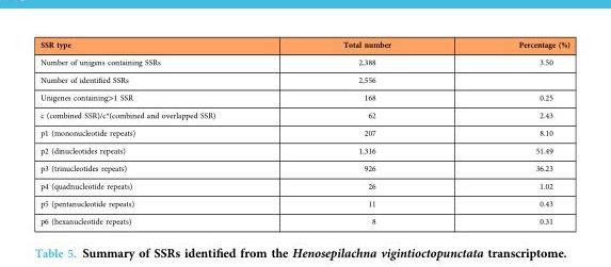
<table><thead><tr><td>SSR type</td><td>Total number</td><td>Percentage (%)</td></tr></thead><tbody><tr><td>Number of unigens containing SSRs</td><td>2,388</td><td>3.50</td></tr><tr><td>Number of identified SSRs</td><td>2,556</td><td></td></tr><tr><td>Unigenes containing&gt;1 SSR</td><td>168</td><td>0.25</td></tr><tr><td>c (combined SSR)/c*(combined and overlapped SSR)</td><td>62</td><td>2.43</td></tr><tr><td>p1 (mononucleotide repeats)</td><td>207</td><td>8.10</td></tr><tr><td>p2 (dinucleotides repeats)</td><td>1,316</td><td>51.49</td></tr><tr><td>p3 (trinucleotides repeats)</td><td>926</td><td>36.23</td></tr><tr><td>p4 (quadnucleotide repeats)</td><td>26</td><td>1.02</td></tr><tr><td>p5 (pentanucleotide repeats)</td><td>11</td><td>0.43</td></tr><tr><td>p6 (hexanucleotide repeats)</td><td>8</td><td>0.31</td></tr></tbody></table>